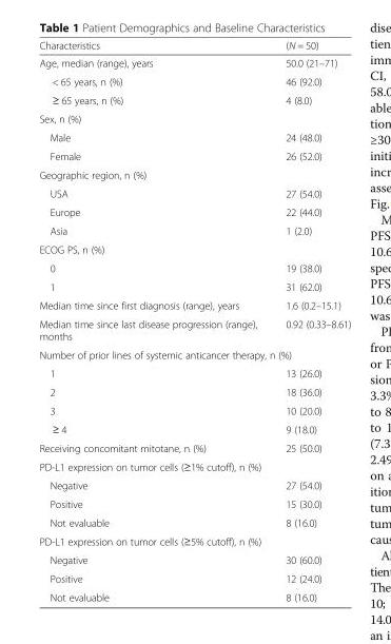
<table><thead><tr><td>Characteristics</td><td>(N = 50)</td></tr></thead><tbody><tr><td>Age, median (range), years</td><td>50.0 (21–71)</td></tr><tr><td>&lt; 65 years, n (%)</td><td>46 (92.0)</td></tr><tr><td>≥ 65 years, n (%)</td><td>4 (8.0)</td></tr><tr><td colspan="2">Sex, n (%)</td></tr><tr><td>Male</td><td>24 (48.0)</td></tr><tr><td>Female</td><td>26 (52.0)</td></tr><tr><td colspan="2">Geographic region, n (%)</td></tr><tr><td>USA</td><td>27 (54.0)</td></tr><tr><td>Europe</td><td>22 (44.0)</td></tr><tr><td>Asia</td><td>1 (2.0)</td></tr><tr><td colspan="2">ECOG PS, n (%)</td></tr><tr><td>0</td><td>19 (38.0)</td></tr><tr><td>1</td><td>31 (62.0)</td></tr><tr><td>Median time since first diagnosis (range), years</td><td>1.6 (0.2–15.1)</td></tr><tr><td>Median time since last disease progression (range), months</td><td>0.92 (0.33–8.61)</td></tr><tr><td colspan="2">Number of prior lines of systemic anticancer therapy, n (%)</td></tr><tr><td>1</td><td>13 (26.0)</td></tr><tr><td>2</td><td>18 (36.0)</td></tr><tr><td>3</td><td>10 (20.0)</td></tr><tr><td>≥ 4</td><td>9 (18.0)</td></tr><tr><td>Receiving concomitant mitotane, n (%)</td><td>25 (50.0)</td></tr><tr><td colspan="2">PD-L1 expression on tumor cells (≥1% cutoff), n (%)</td></tr><tr><td>Negative</td><td>27 (54.0)</td></tr><tr><td>Positive</td><td>15 (30.0)</td></tr><tr><td>Not evaluable</td><td>8 (16.0)</td></tr><tr><td colspan="2">PD-L1 expression on tumor cells (≥5% cutoff), n (%)</td></tr><tr><td>Negative</td><td>30 (60.0)</td></tr><tr><td>Positive</td><td>12 (24.0)</td></tr><tr><td>Not evaluable</td><td>8 (16.0)</td></tr></tbody></table>